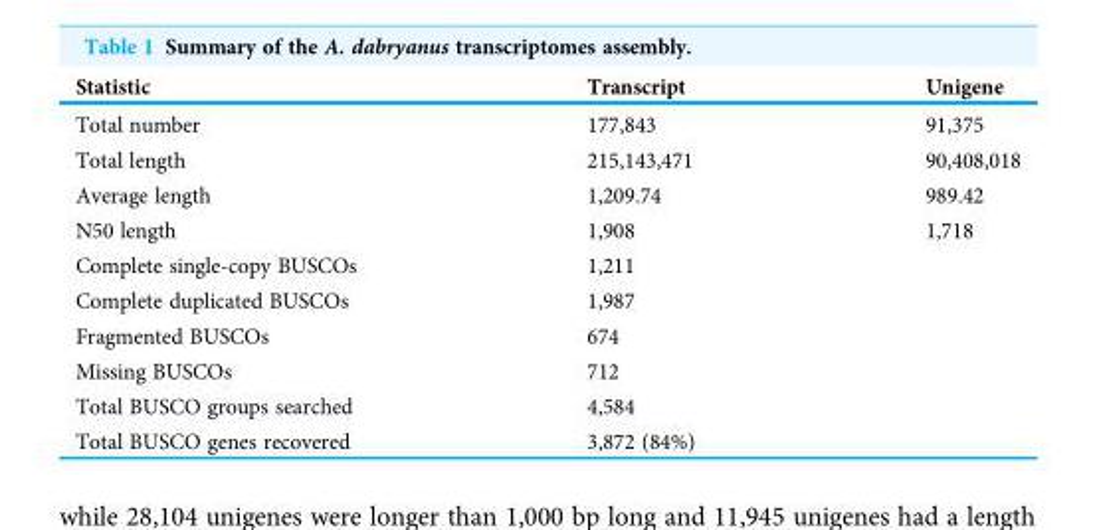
<table><thead><tr><td>Statistic</td><td>Transcript</td><td>Unigene</td></tr></thead><tbody><tr><td>Total number</td><td>177,843</td><td>91,375</td></tr><tr><td>Total length</td><td>215,143,471</td><td>90,408,018</td></tr><tr><td>Average length</td><td>1,209.74</td><td>989.42</td></tr><tr><td>N50 length</td><td>1,908</td><td>1,718</td></tr><tr><td>Complete single-copy BUSCOs</td><td>1,211</td><td></td></tr><tr><td>Complete duplicated BUSCOs</td><td>1,987</td><td></td></tr><tr><td>Fragmented BUSCOs</td><td>674</td><td></td></tr><tr><td>Missing BUSCOs</td><td>712</td><td></td></tr><tr><td>Total BUSCO groups searched</td><td>4,584</td><td></td></tr><tr><td>Total BUSCO genes recovered</td><td>3,872 (84%)</td><td></td></tr></tbody></table>